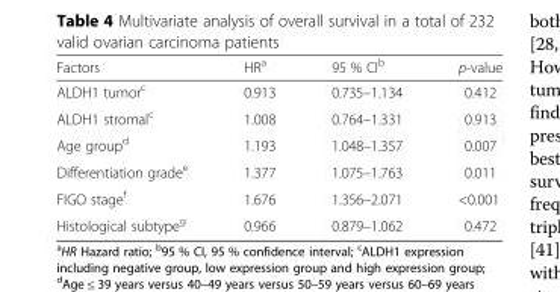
<table><thead><tr><td>Factors</td><td>HR<sup>a</sup></td><td>95 % CI<sup>b</sup></td><td>p-value</td></tr></thead><tbody><tr><td>ALDH1 tumor<sup>c</sup></td><td>0.913</td><td>0.735–1.134</td><td>0.412</td></tr><tr><td>ALDH1 stromal<sup>c</sup></td><td>1.008</td><td>0.764–1.331</td><td>0.913</td></tr><tr><td>Age group<sup>d</sup></td><td>1.193</td><td>1.048–1.357</td><td>0.007</td></tr><tr><td>Differentiation grade<sup>e</sup></td><td>1.377</td><td>1.075–1.763</td><td>0.011</td></tr><tr><td>FIGO stage<sup>f</sup></td><td>1.676</td><td>1.356–2.071</td><td>&lt;0.001</td></tr><tr><td>Histological subtype<sup>g</sup></td><td>0.966</td><td>0.879–1.062</td><td>0.472</td></tr></tbody></table>